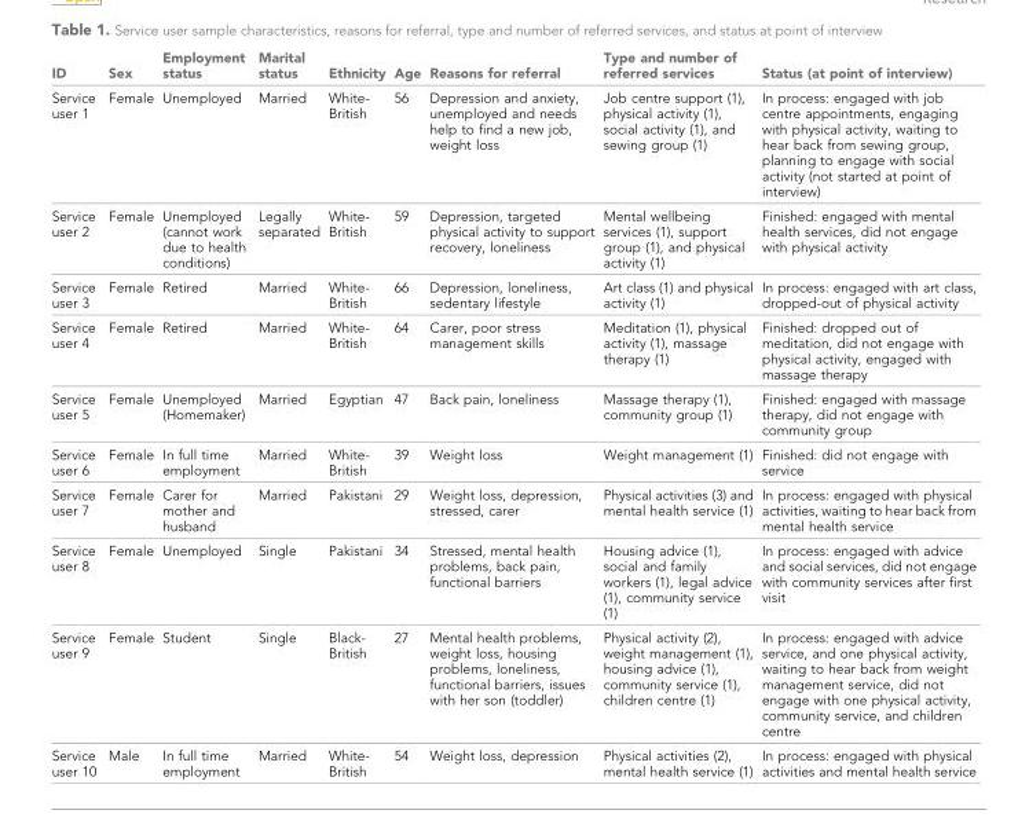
<table><thead><tr><td>ID</td><td>Sex</td><td>Employment status</td><td>Marital status</td><td>Ethnicity</td><td>Age</td><td>Reasons for referral</td><td>Type and number of referred services</td><td>Status (at point of interview)</td></tr></thead><tbody><tr><td>Service user 1</td><td>Female</td><td>Unemployed</td><td>Married</td><td>White- British</td><td>56</td><td>Depression and anxiety, unemployed and needs help to find a new job, weight loss</td><td>Job centre support (1), physical activity (1), social activity (1), and sewing group (1)</td><td>In process: engaged with job centre appointments, engaging with physical activity, waiting to hear back from sewing group, planning to engage with social activity (not started at point of interview)</td></tr><tr><td>Service user 2</td><td>Female</td><td>Unemployed (cannot work due to health conditions)</td><td>Legally separated</td><td>White- British</td><td>59</td><td>Depression, targeted physical activity to support recovery, loneliness</td><td>Mental wellbeing services (1), support group (1), and physical activity (1)</td><td>Finished: engaged with mental health services, did not engage with physical activity</td></tr><tr><td>Service user 3</td><td>Female</td><td>Retired</td><td>Married</td><td>White- British</td><td>66</td><td>Depression, loneliness, sedentary lifestyle</td><td>Art class (1) and physical activity (1)</td><td>In process: engaged with art class, dropped-out of physical activity</td></tr><tr><td>Service user 4</td><td>Female</td><td>Retired</td><td>Married</td><td>White- British</td><td>64</td><td>Carer, poor stress management skills</td><td>Meditation (1), physical activity (1), massage therapy (1)</td><td>Finished: dropped out of meditation, did not engage with physical activity, engaged with massage therapy</td></tr><tr><td>Service user 5</td><td>Female</td><td>Unemployed (Homemaker)</td><td>Married</td><td>Egyptian</td><td>47</td><td>Back pain, loneliness</td><td>Massage therapy (1), community group (1)</td><td>Finished: engaged with massage therapy, did not engage with community group</td></tr><tr><td>Service user 6</td><td>Female</td><td>In full time employment</td><td>Married</td><td>White- British</td><td>39</td><td>Weight loss</td><td>Weight management (1)</td><td>Finished: did not engage with service</td></tr><tr><td>Service user 7</td><td>Female</td><td>Carer for mother and husband</td><td>Married</td><td>Pakistani</td><td>29</td><td>Weight loss, depression, stressed, carer</td><td>Physical activities (3) and mental health service (1)</td><td>In process: engaged with physical activities, waiting to hear back from mental health service</td></tr><tr><td>Service user 8</td><td>Female</td><td>Unemployed</td><td>Single</td><td>Pakistani</td><td>34</td><td>Stressed, mental health problems, back pain, functional barriers</td><td>Housing advice (1), social and family workers (1), legal advice (1), community service (1)</td><td>In process: engaged with advice and social services, did not engage with community services after first visit</td></tr><tr><td>Service user 9</td><td>Female</td><td>Student</td><td>Single</td><td>Black- British</td><td>27</td><td>Mental health problems, weight loss, housing problems, loneliness, functional barriers, issues with her son (toddler)</td><td>Physical activity (2), weight management (1), housing advice (1), community service (1), children centre (1)</td><td>In process: engaged with advice service, and one physical activity, waiting to hear back from weight management service, did not engage with one physical activity, community service, and children centre</td></tr><tr><td>Service user 10</td><td>Male</td><td>In full time employment</td><td>Married</td><td>White- British</td><td>54</td><td>Weight loss, depression</td><td>Physical activities (2), mental health service (1)</td><td>In process: engaged with physical activities and mental health service</td></tr></tbody></table>